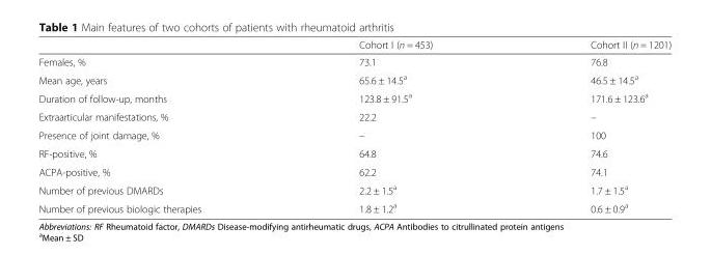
<table><thead><tr><td></td><td>Cohort I (n = 453)</td><td>Cohort II (n = 1201)</td></tr></thead><tbody><tr><td>Females, %</td><td>73.1</td><td>76.8</td></tr><tr><td>Mean age, years</td><td>65.6 ± 14.5<sup>a</sup></td><td>46.5 ± 14.5<sup>a</sup></td></tr><tr><td>Duration of follow-up, months</td><td>123.8 ± 91.5<sup>a</sup></td><td>171.6 ± 123.6<sup>a</sup></td></tr><tr><td>Extraarticular manifestations, %</td><td>22.2</td><td>–</td></tr><tr><td>Presence of joint damage, %</td><td>–</td><td>100</td></tr><tr><td>RF-positive, %</td><td>64.8</td><td>74.6</td></tr><tr><td>ACPA-positive, %</td><td>62.2</td><td>74.1</td></tr><tr><td>Number of previous DMARDs</td><td>2.2 ± 1.5<sup>a</sup></td><td>1.7 ± 1.5<sup>a</sup></td></tr><tr><td>Number of previous biologic therapies</td><td>1.8 ± 1.2<sup>a</sup></td><td>0.6 ± 0.9<sup>a</sup></td></tr></tbody></table>